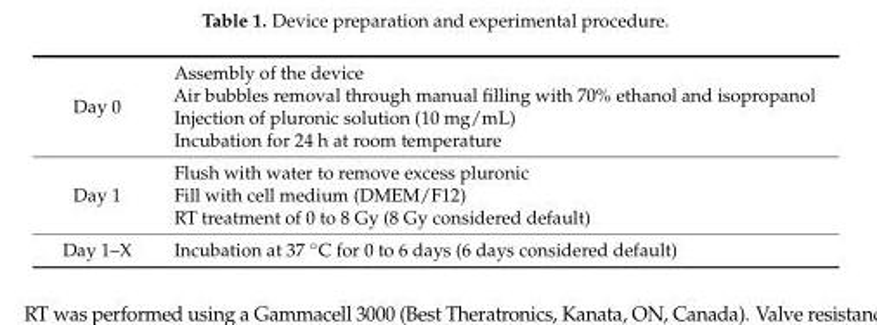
<table><tbody><tr><td>Day 0</td><td>Assembly of the device Air bubbles removal through manual filling with 70% ethanol and isopropanol Injection of pluronic solution (10 mg/mL) Incubation for 24 h at room temperature</td></tr><tr><td>Day 1</td><td>Flush with water to remove excess pluronic Fill with cell medium (DMEM/F12) RT treatment of 0 to 8 Gy (8 Gy considered default)</td></tr><tr><td>Day 1–X</td><td>Incubation at 37 ◦C for 0 to 6 days (6 days considered default)</td></tr></tbody></table>